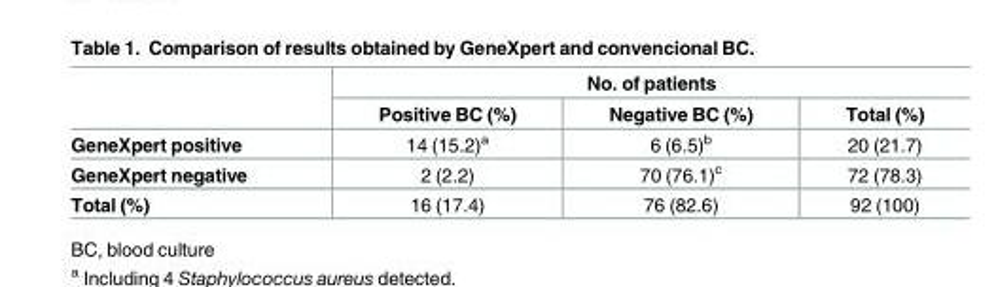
<table><thead><tr><td rowspan="2"></td><td colspan="3">No. of patients</td></tr><tr><td>Positive BC (%)</td><td>Negative BC (%)</td><td>Total (%)</td></tr></thead><tbody><tr><td>GeneXpert positive</td><td>14 (15.2)<sup>a</sup></td><td>6 (6.5)<sup>b</sup></td><td>20 (21.7)</td></tr><tr><td>GeneXpert negative</td><td>2 (2.2)</td><td>70 (76.1)<sup>c</sup></td><td>72 (78.3)</td></tr><tr><td>Total (%)</td><td>16 (17.4)</td><td>76 (82.6)</td><td>92 (100)</td></tr></tbody></table>